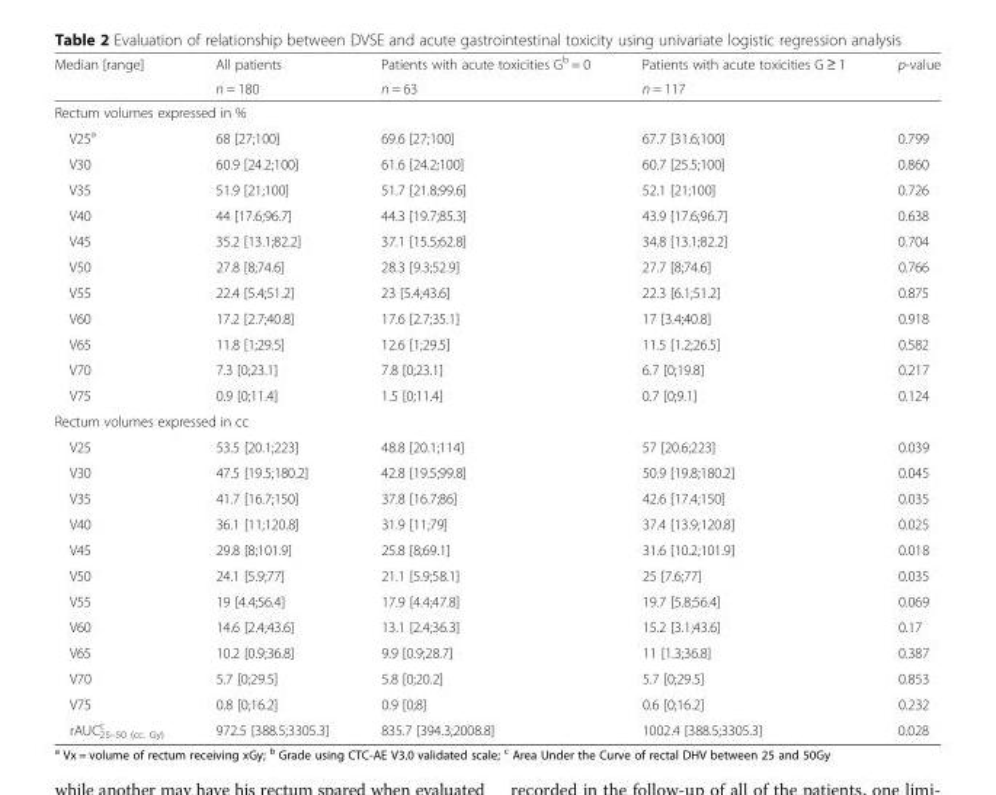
<table><thead><tr><td rowspan="2">Median [range]</td><td rowspan="2">All patients n = 180</td><td rowspan="2">Patients with acute toxicities G<sup>b</sup> = 0 n = 63</td><td rowspan="2">Patients with acute toxicities G ≥ 1 n = 117</td><td rowspan="2">p-value</td></tr><tr></tr></thead><tbody><tr><td colspan="5">Rectum volumes expressed in %</td></tr><tr><td>V25<sup>a</sup></td><td>68 [27;100]</td><td>69.6 [27;100]</td><td>67.7 [31.6;100]</td><td>0.799</td></tr><tr><td>V30</td><td>60.9 [24.2;100]</td><td>61.6 [24.2;100]</td><td>60.7 [25.5;100]</td><td>0.860</td></tr><tr><td>V35</td><td>51.9 [21;100]</td><td>51.7 [21.8;99.6]</td><td>52.1 [21;100]</td><td>0.726</td></tr><tr><td>V40</td><td>44 [17.6;96.7]</td><td>44.3 [19.7;85.3]</td><td>43.9 [17.6;96.7]</td><td>0.638</td></tr><tr><td>V45</td><td>35.2 [13.1;82.2]</td><td>37.1 [15.5;62.8]</td><td>34.8 [13.1;82.2]</td><td>0.704</td></tr><tr><td>V50</td><td>27.8 [8;74.6]</td><td>28.3 [9.3;52.9]</td><td>27.7 [8;74.6]</td><td>0.766</td></tr><tr><td>V55</td><td>22.4 [5.4;51.2]</td><td>23 [5.4;43.6]</td><td>22.3 [6.1;51.2]</td><td>0.875</td></tr><tr><td>V60</td><td>17.2 [2.7;40.8]</td><td>17.6 [2.7;35.1]</td><td>17 [3.4;40.8]</td><td>0.918</td></tr><tr><td>V65</td><td>11.8 [1;29.5]</td><td>12.6 [1;29.5]</td><td>11.5 [1.2;26.5]</td><td>0.582</td></tr><tr><td>V70</td><td>7.3 [0;23.1]</td><td>7.8 [0;23.1]</td><td>6.7 [0;19.8]</td><td>0.217</td></tr><tr><td>V75</td><td>0.9 [0;11.4]</td><td>1.5 [0;11.4]</td><td>0.7 [0;9.1]</td><td>0.124</td></tr><tr><td colspan="5">Rectum volumes expressed in cc</td></tr><tr><td>V25</td><td>53.5 [20.1;223]</td><td>48.8 [20.1;114]</td><td>57 [20.6;223]</td><td>0.039</td></tr><tr><td>V30</td><td>47.5 [19.5;180.2]</td><td>42.8 [19.5;99.8]</td><td>50.9 [19.8;180.2]</td><td>0.045</td></tr><tr><td>V35</td><td>41.7 [16.7;150]</td><td>37.8 [16.7;86]</td><td>42.6 [17.4;150]</td><td>0.035</td></tr><tr><td>V40</td><td>36.1 [11;120.8]</td><td>31.9 [11;79]</td><td>37.4 [13.9;120.8]</td><td>0.025</td></tr><tr><td>V45</td><td>29.8 [8;101.9]</td><td>25.8 [8;69.1]</td><td>31.6 [10.2;101.9]</td><td>0.018</td></tr><tr><td>V50</td><td>24.1 [5.9;77]</td><td>21.1 [5.9;58.1]</td><td>25 [7.6;77]</td><td>0.035</td></tr><tr><td>V55</td><td>19 [4.4;56.4]</td><td>17.9 [4.4;47.8]</td><td>19.7 [5.8;56.4]</td><td>0.069</td></tr><tr><td>V60</td><td>14.6 [2.4;43.6]</td><td>13.1 [2.4;36.3]</td><td>15.2 [3.1;43.6]</td><td>0.17</td></tr><tr><td>V65</td><td>10.2 [0.9;36.8]</td><td>9.9 [0.9;28.7]</td><td>11 [1.3;36.8]</td><td>0.387</td></tr><tr><td>V70</td><td>5.7 [0;29.5]</td><td>5.8 [0;20.2]</td><td>5.7 [0;29.5]</td><td>0.853</td></tr><tr><td>V75</td><td>0.8 [0;16.2]</td><td>0.9 [0;8]</td><td>0.6 [0;16.2]</td><td>0.232</td></tr><tr><td>rAUC<sub>25–50 (cc. Gy)</sub> <sup>c</sup></td><td>972.5 [388.5;3305.3]</td><td>835.7 [394.3;2008.8]</td><td>1002.4 [388.5;3305.3]</td><td>0.028</td></tr></tbody></table>